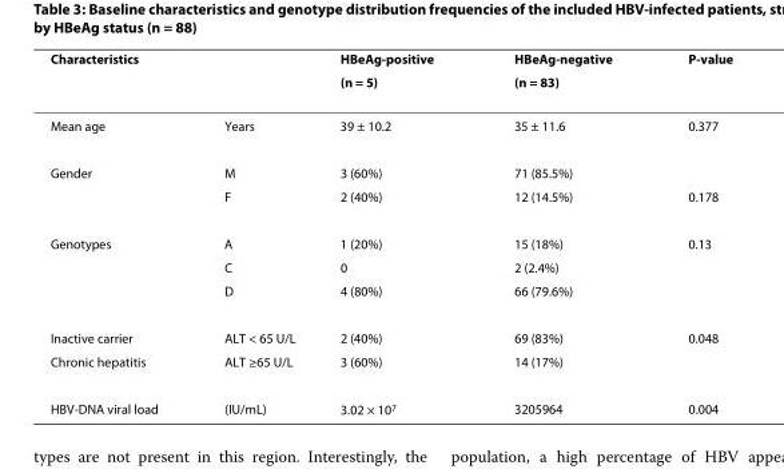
<table><thead><tr><td rowspan="2">Characteristics</td><td rowspan="2"></td><td rowspan="2">HBeAg-positive (n = 5)</td><td rowspan="2">HBeAg-negative (n = 83)</td><td rowspan="2">P-value</td></tr><tr></tr></thead><tbody><tr><td>Mean age</td><td>Years</td><td>39 ± 10.2</td><td>35 ± 11.6</td><td>0.377</td></tr><tr><td rowspan="2">Gender</td><td>M</td><td>3 (60%)</td><td>71 (85.5%)</td><td></td></tr><tr><td>F</td><td>2 (40%)</td><td>12 (14.5%)</td><td>0.178</td></tr><tr><td rowspan="3">Genotypes</td><td>A</td><td>1 (20%)</td><td>15 (18%)</td><td>0.13</td></tr><tr><td>C</td><td>0</td><td>2 (2.4%)</td><td></td></tr><tr><td>D</td><td>4 (80%)</td><td>66 (79.6%)</td><td></td></tr><tr><td>Inactive carrier</td><td>ALT &lt; 65 U/L</td><td>2 (40%)</td><td>69 (83%)</td><td>0.048</td></tr><tr><td>Chronic hepatitis</td><td>ALT ≥65 U/L</td><td>3 (60%)</td><td>14 (17%)</td><td></td></tr><tr><td>HBV-DNA viral load</td><td>(IU/mL)</td><td>3.02 × 10<sup>7</sup></td><td>3205964</td><td>0.004</td></tr></tbody></table>